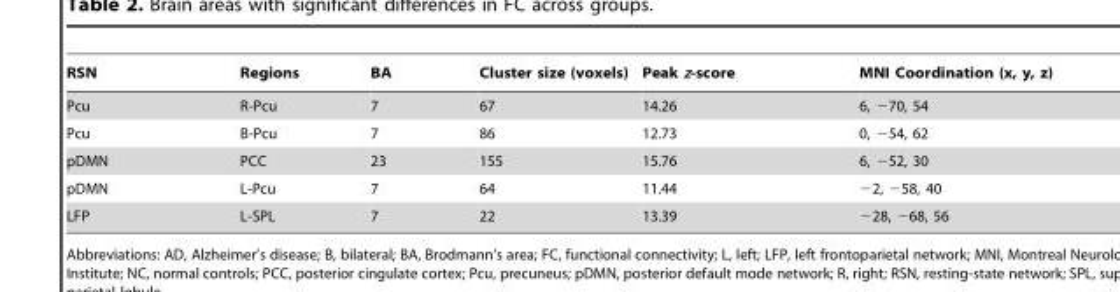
<table><thead><tr><td>RSN</td><td>Regions</td><td>BA</td><td>Cluster size (voxels)</td><td>Peak z-score</td><td>MNI Coordination (x, y, z)</td></tr></thead><tbody><tr><td>Pcu</td><td>R-Pcu</td><td>7</td><td>67</td><td>14.26</td><td>6, −70, 54</td></tr><tr><td>Pcu</td><td>B-Pcu</td><td>7</td><td>86</td><td>12.73</td><td>0, −54, 62</td></tr><tr><td>pDMN</td><td>PCC</td><td>23</td><td>155</td><td>15.76</td><td>6, −52, 30</td></tr><tr><td>pDMN</td><td>L-Pcu</td><td>7</td><td>64</td><td>11.44</td><td>−2, −58, 40</td></tr><tr><td>LFP</td><td>L-SPL</td><td>7</td><td>22</td><td>13.39</td><td>−28, −68, 56</td></tr></tbody></table>